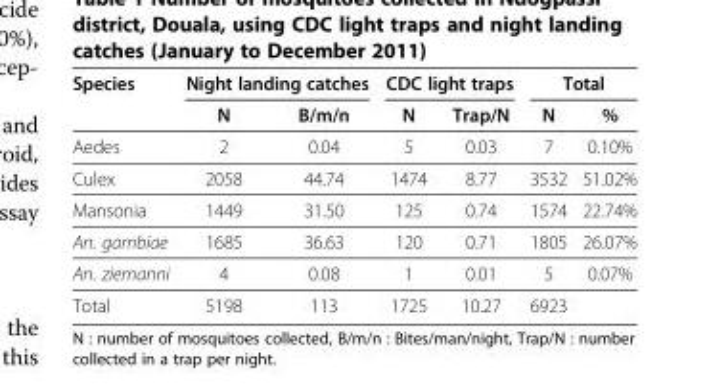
<table><thead><tr><td rowspan="2">Species</td><td colspan="2">Night landing catches</td><td colspan="2">CDC light traps</td><td colspan="2">Total</td></tr><tr><td>N</td><td>B/m/n</td><td>N</td><td>Trap/N</td><td>N</td><td>%</td></tr></thead><tbody><tr><td>Aedes</td><td>2</td><td>0.04</td><td>5</td><td>0.03</td><td>7</td><td>0.10%</td></tr><tr><td>Culex</td><td>2058</td><td>44.74</td><td>1474</td><td>8.77</td><td>3532</td><td>51.02%</td></tr><tr><td>Mansonia</td><td>1449</td><td>31.50</td><td>125</td><td>0.74</td><td>1574</td><td>22.74%</td></tr><tr><td>An. gambiae</td><td>1685</td><td>36.63</td><td>120</td><td>0.71</td><td>1805</td><td>26.07%</td></tr><tr><td>An. ziemanni</td><td>4</td><td>0.08</td><td>1</td><td>0.01</td><td>5</td><td>0.07%</td></tr><tr><td>Total</td><td>5198</td><td>113</td><td>1725</td><td>10.27</td><td>6923</td><td></td></tr></tbody></table>